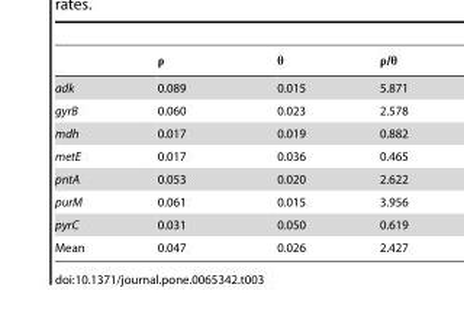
<table><thead><tr><td></td><td>ρ</td><td>θ</td><td>ρ/θ</td></tr></thead><tbody><tr><td>adk</td><td>0.089</td><td>0.015</td><td>5.871</td></tr><tr><td>gyrB</td><td>0.060</td><td>0.023</td><td>2.578</td></tr><tr><td>mdh</td><td>0.017</td><td>0.019</td><td>0.882</td></tr><tr><td>metE</td><td>0.017</td><td>0.036</td><td>0.465</td></tr><tr><td>pntA</td><td>0.053</td><td>0.020</td><td>2.622</td></tr><tr><td>purM</td><td>0.061</td><td>0.015</td><td>3.956</td></tr><tr><td>pyrC</td><td>0.031</td><td>0.050</td><td>0.619</td></tr><tr><td>Mean</td><td>0.047</td><td>0.026</td><td>2.427</td></tr></tbody></table>